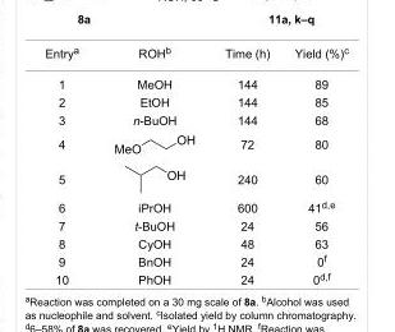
<table><tbody><tr><td>Entry<sup>a</sup></td><td>ROH<sup>b</sup></td><td>Time (h)</td><td>Yield (%)<sup>c</sup></td></tr><tr><td>1</td><td>MeOH</td><td>144</td><td>89</td></tr><tr><td>2</td><td>EtOH</td><td>144</td><td>85</td></tr><tr><td>3</td><td>n-BuOH</td><td>144</td><td>68</td></tr><tr><td>4</td><td></td><td>72</td><td>80</td></tr><tr><td>5</td><td></td><td>240</td><td>60</td></tr><tr><td>6</td><td>iPrOH</td><td>600</td><td>41<sup>d,e</sup></td></tr><tr><td>7</td><td>t-BuOH</td><td>24</td><td>56</td></tr><tr><td>8</td><td>CyOH</td><td>48</td><td>63</td></tr><tr><td>9</td><td>BnOH</td><td>24</td><td>0<sup>f</sup></td></tr><tr><td>10</td><td>PhOH</td><td>24</td><td>0<sup>d,f</sup></td></tr></tbody></table>